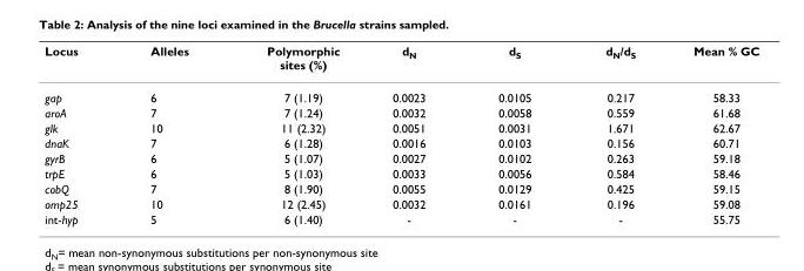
<table><thead><tr><td>Locus</td><td>Alleles</td><td>Polymorphic sites (%)</td><td>dN</td><td>dS</td><td>dN/dS</td><td>Mean % GC</td></tr></thead><tbody><tr><td>gap</td><td>6</td><td>7 (1.19)</td><td>0.0023</td><td>0.0105</td><td>0.217</td><td>58.33</td></tr><tr><td>aroA</td><td>7</td><td>7 (1.24)</td><td>0.0032</td><td>0.0058</td><td>0.559</td><td>61.68</td></tr><tr><td>glk</td><td>10</td><td>11 (2.32)</td><td>0.0051</td><td>0.0031</td><td>1.671</td><td>62.67</td></tr><tr><td>dnaK</td><td>7</td><td>6 (1.28)</td><td>0.0016</td><td>0.0103</td><td>0.156</td><td>60.71</td></tr><tr><td>gyrB</td><td>6</td><td>5 (1.07)</td><td>0.0027</td><td>0.0102</td><td>0.263</td><td>59.18</td></tr><tr><td>trpE</td><td>6</td><td>5 (1.03)</td><td>0.0033</td><td>0.0056</td><td>0.584</td><td>58.46</td></tr><tr><td>cobQ</td><td>7</td><td>8 (1.90)</td><td>0.0055</td><td>0.0129</td><td>0.425</td><td>59.15</td></tr><tr><td>omp25</td><td>10</td><td>12 (2.45)</td><td>0.0032</td><td>0.0161</td><td>0.196</td><td>59.08</td></tr><tr><td>int-hyp</td><td>5</td><td>6 (1.40)</td><td>-</td><td>-</td><td>-</td><td>55.75</td></tr></tbody></table>